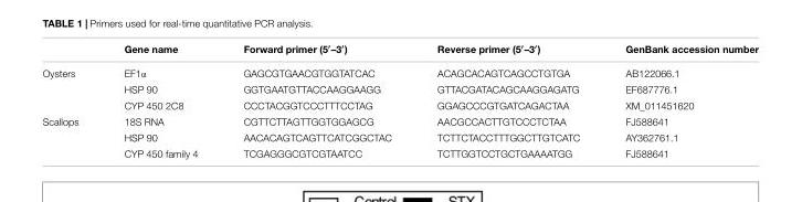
<table><thead><tr><td></td><td>Gene name</td><td>Forward primer (5′–3′)</td><td>Reverse primer (5′–3′)</td><td>GenBank accession number</td></tr></thead><tbody><tr><td rowspan="3">Oysters</td><td>EF1α</td><td>GAGCGTGAACGTGGTATCAC</td><td>ACAGCACAGTCAGCCTGTGA</td><td>AB122066.1</td></tr><tr><td>HSP 90</td><td>GGTGAATGTTACCAAGGAAGG</td><td>GTTACGATACAGCAAGGAGATG</td><td>EF687776.1</td></tr><tr><td>CYP 450 2C8</td><td>CCCTACGGTCCCTTTCCTAG</td><td>GGAGCCCGTGATCAGACTAA</td><td>XM_011451620</td></tr><tr><td rowspan="3">Scallops</td><td>18S RNA</td><td>CGTTCTTAGTTGGTGGAGCG</td><td>AACGCCACTTGTCCCTCTAA</td><td>FJ588641</td></tr><tr><td>HSP 90</td><td>AACACAGTCAGTTCATCGGCTAC</td><td>TCTTCTACCTTTGGCTTGTCATC</td><td>AY362761.1</td></tr><tr><td>CYP 450 family 4</td><td>TCGAGGGCGTCGTAATCC</td><td>TCTTGGTCCTGCTGAAAATGG</td><td>FJ588641</td></tr></tbody></table>